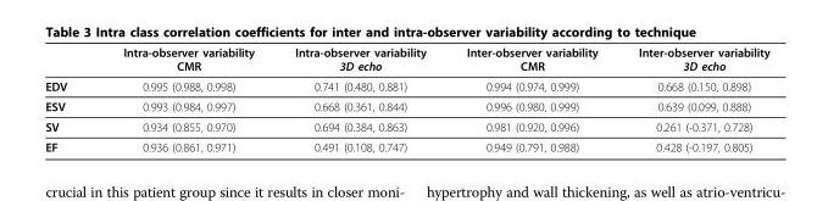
<table><thead><tr><td></td><td>Intra-observer variability CMR</td><td>Intra-observer variability 3D echo</td><td>Inter-observer variability CMR</td><td>Inter-observer variability 3D echo</td></tr></thead><tbody><tr><td>EDV</td><td>0.995 (0.988, 0.998)</td><td>0.741 (0.480, 0.881)</td><td>0.994 (0.974, 0.999)</td><td>0.668 (0.150, 0.898)</td></tr><tr><td>ESV</td><td>0.993 (0.984, 0.997)</td><td>0.668 (0.361, 0.844)</td><td>0.996 (0.980, 0.999)</td><td>0.639 (0.099, 0.888)</td></tr><tr><td>SV</td><td>0.934 (0.855, 0.970)</td><td>0.694 (0.384, 0.863)</td><td>0.981 (0.920, 0.996)</td><td>0.261 (-0.371, 0.728)</td></tr><tr><td>EF</td><td>0.936 (0.861, 0.971)</td><td>0.491 (0.108, 0.747)</td><td>0.949 (0.791, 0.988)</td><td>0.428 (-0.197, 0.805)</td></tr></tbody></table>